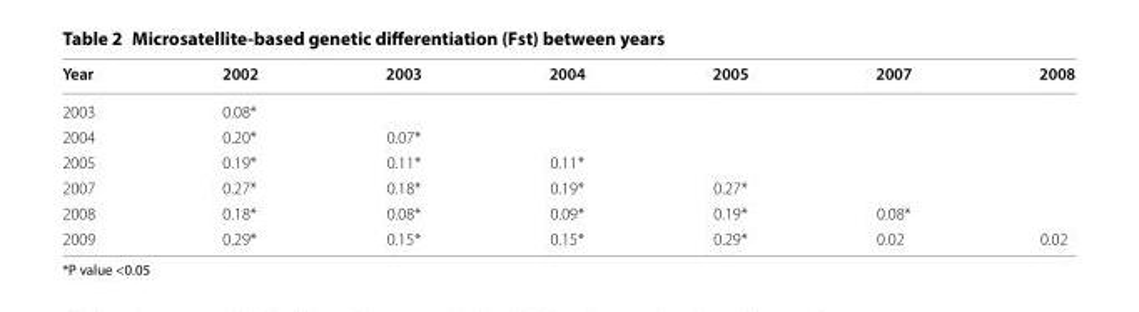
<table><thead><tr><td>Year</td><td>2002</td><td>2003</td><td>2004</td><td>2005</td><td>2007</td><td>2008</td></tr></thead><tbody><tr><td>2003</td><td>0.08*</td><td></td><td></td><td></td><td></td><td></td></tr><tr><td>2004</td><td>0.20*</td><td>0.07*</td><td></td><td></td><td></td><td></td></tr><tr><td>2005</td><td>0.19*</td><td>0.11*</td><td>0.11*</td><td></td><td></td><td></td></tr><tr><td>2007</td><td>0.27*</td><td>0.18*</td><td>0.19*</td><td>0.27*</td><td></td><td></td></tr><tr><td>2008</td><td>0.18*</td><td>0.08*</td><td>0.09*</td><td>0.19*</td><td>0.08*</td><td></td></tr><tr><td>2009</td><td>0.29*</td><td>0.15*</td><td>0.15*</td><td>0.29*</td><td>0.02</td><td>0.02</td></tr></tbody></table>